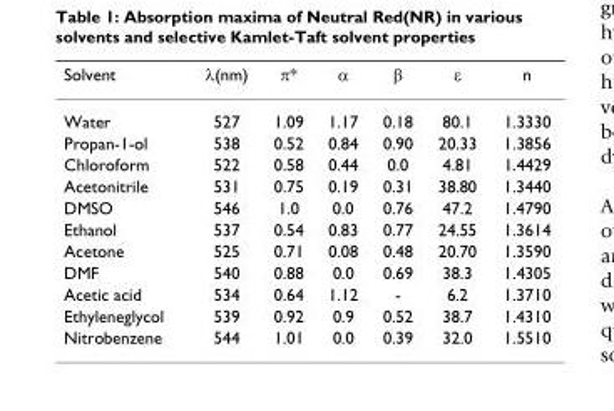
<table><thead><tr><td>Solvent</td><td>λ(nm)</td><td>π*</td><td>α</td><td>β</td><td>ε</td><td>n</td></tr></thead><tbody><tr><td>Water</td><td>527</td><td>1.09</td><td>1.17</td><td>0.18</td><td>80.1</td><td>1.3330</td></tr><tr><td>Propan-1-ol</td><td>538</td><td>0.52</td><td>0.84</td><td>0.90</td><td>20.33</td><td>1.3856</td></tr><tr><td>Chloroform</td><td>522</td><td>0.58</td><td>0.44</td><td>0.0</td><td>4.81</td><td>1.4429</td></tr><tr><td>Acetonitrile</td><td>531</td><td>0.75</td><td>0.19</td><td>0.31</td><td>38.80</td><td>1.3440</td></tr><tr><td>DMSO</td><td>546</td><td>1.0</td><td>0.0</td><td>0.76</td><td>47.2</td><td>1.4790</td></tr><tr><td>Ethanol</td><td>537</td><td>0.54</td><td>0.83</td><td>0.77</td><td>24.55</td><td>1.3614</td></tr><tr><td>Acetone</td><td>525</td><td>0.71</td><td>0.08</td><td>0.48</td><td>20.70</td><td>1.3590</td></tr><tr><td>DMF</td><td>540</td><td>0.88</td><td>0.0</td><td>0.69</td><td>38.3</td><td>1.4305</td></tr><tr><td>Acetic acid</td><td>534</td><td>0.64</td><td>1.12</td><td>-</td><td>6.2</td><td>1.3710</td></tr><tr><td>Ethyleneglycol</td><td>539</td><td>0.92</td><td>0.9</td><td>0.52</td><td>38.7</td><td>1.4310</td></tr><tr><td>Nitrobenzene</td><td>544</td><td>1.01</td><td>0.0</td><td>0.39</td><td>32.0</td><td>1.5510</td></tr></tbody></table>